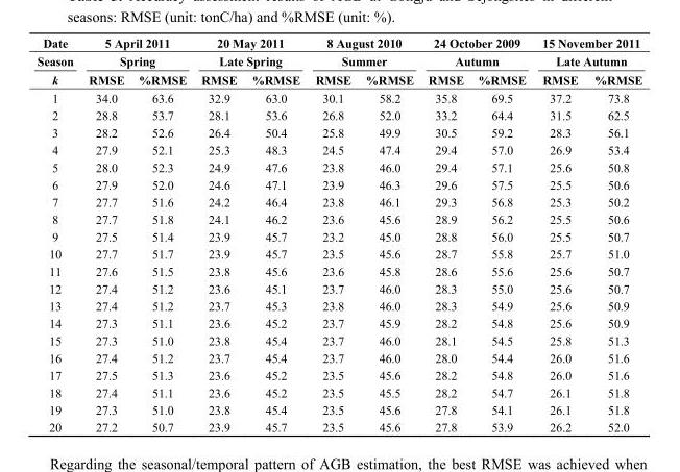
<table><thead><tr><td rowspan="3">Date Season k</td><td rowspan="2" colspan="2">5 April 2011 Spring</td><td rowspan="2" colspan="2">20 May 2011 Late Spring</td><td rowspan="2" colspan="2">8 August 2010 Summer</td><td rowspan="2" colspan="2">24 October 2009 Autumn</td><td rowspan="2" colspan="2">15 November 2011 Late Autumn</td></tr><tr></tr><tr><td>RMSE</td><td>%RMSE</td><td>RMSE</td><td>%RMSE</td><td>RMSE</td><td>%RMSE</td><td>RMSE</td><td>%RMSE</td><td>RMSE</td><td>%RMSE</td></tr></thead><tbody><tr><td>1</td><td>34.0</td><td>63.6</td><td>32.9</td><td>63.0</td><td>30.1</td><td>58.2</td><td>35.8</td><td>69.5</td><td>37.2</td><td>73.8</td></tr><tr><td>2</td><td>28.8</td><td>53.7</td><td>28.1</td><td>53.6</td><td>26.8</td><td>52.0</td><td>33.2</td><td>64.4</td><td>31.5</td><td>62.5</td></tr><tr><td>3</td><td>28.2</td><td>52.6</td><td>26.4</td><td>50.4</td><td>25.8</td><td>49.9</td><td>30.5</td><td>59.2</td><td>28.3</td><td>56.1</td></tr><tr><td>4</td><td>27.9</td><td>52.1</td><td>25.3</td><td>48.3</td><td>24.5</td><td>47.4</td><td>29.4</td><td>57.0</td><td>26.9</td><td>53.4</td></tr><tr><td>5</td><td>28.0</td><td>52.3</td><td>24.9</td><td>47.6</td><td>23.8</td><td>46.0</td><td>29.4</td><td>57.1</td><td>25.6</td><td>50.8</td></tr><tr><td>6</td><td>27.9</td><td>52.0</td><td>24.6</td><td>47.1</td><td>23.9</td><td>46.3</td><td>29.6</td><td>57.5</td><td>25.5</td><td>50.6</td></tr><tr><td>7</td><td>27.7</td><td>51.6</td><td>24.2</td><td>46.4</td><td>23.8</td><td>46.1</td><td>29.3</td><td>56.8</td><td>25.3</td><td>50.2</td></tr><tr><td>8</td><td>27.7</td><td>51.8</td><td>24.1</td><td>46.2</td><td>23.6</td><td>45.6</td><td>28.9</td><td>56.2</td><td>25.5</td><td>50.6</td></tr><tr><td>9</td><td>27.5</td><td>51.4</td><td>23.9</td><td>45.7</td><td>23.2</td><td>45.0</td><td>28.8</td><td>56.0</td><td>25.5</td><td>50.7</td></tr><tr><td>10</td><td>27.7</td><td>51.7</td><td>23.9</td><td>45.7</td><td>23.5</td><td>45.6</td><td>28.7</td><td>55.8</td><td>25.7</td><td>51.0</td></tr><tr><td>11</td><td>27.6</td><td>51.5</td><td>23.8</td><td>45.6</td><td>23.6</td><td>45.8</td><td>28.6</td><td>55.6</td><td>25.6</td><td>50.7</td></tr><tr><td>12</td><td>27.4</td><td>51.2</td><td>23.6</td><td>45.1</td><td>23.7</td><td>46.0</td><td>28.3</td><td>55.0</td><td>25.6</td><td>50.7</td></tr><tr><td>13</td><td>27.4</td><td>51.2</td><td>23.7</td><td>45.3</td><td>23.8</td><td>46.0</td><td>28.3</td><td>54.9</td><td>25.6</td><td>50.9</td></tr><tr><td>14</td><td>27.3</td><td>51.1</td><td>23.6</td><td>45.2</td><td>23.7</td><td>45.9</td><td>28.2</td><td>54.8</td><td>25.6</td><td>50.9</td></tr><tr><td>15</td><td>27.3</td><td>51.0</td><td>23.8</td><td>45.4</td><td>23.7</td><td>46.0</td><td>28.1</td><td>54.5</td><td>25.8</td><td>51.3</td></tr><tr><td>16</td><td>27.4</td><td>51.2</td><td>23.7</td><td>45.4</td><td>23.7</td><td>46.0</td><td>28.0</td><td>54.4</td><td>26.0</td><td>51.6</td></tr><tr><td>17</td><td>27.5</td><td>51.3</td><td>23.6</td><td>45.2</td><td>23.5</td><td>45.6</td><td>28.2</td><td>54.8</td><td>26.0</td><td>51.6</td></tr><tr><td>18</td><td>27.4</td><td>51.1</td><td>23.6</td><td>45.2</td><td>23.5</td><td>45.5</td><td>28.2</td><td>54.7</td><td>26.1</td><td>51.8</td></tr><tr><td>19</td><td>27.3</td><td>51.0</td><td>23.8</td><td>45.4</td><td>23.5</td><td>45.6</td><td>27.8</td><td>54.1</td><td>26.1</td><td>51.8</td></tr><tr><td>20</td><td>27.2</td><td>50.7</td><td>23.9</td><td>45.7</td><td>23.5</td><td>45.6</td><td>27.8</td><td>53.9</td><td>26.2</td><td>52.0</td></tr></tbody></table>